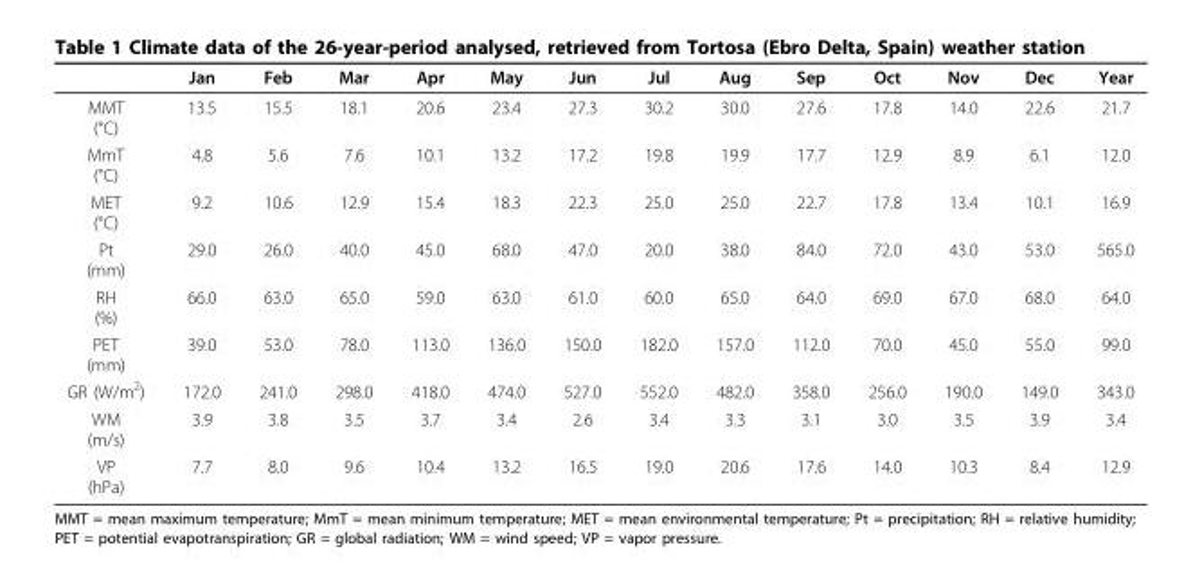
<table><thead><tr><td></td><td>Jan</td><td>Feb</td><td>Mar</td><td>Apr</td><td>May</td><td>Jun</td><td>Jul</td><td>Aug</td><td>Sep</td><td>Oct</td><td>Nov</td><td>Dec</td><td>Year</td></tr></thead><tbody><tr><td>MMT (°C)</td><td>13.5</td><td>15.5</td><td>18.1</td><td>20.6</td><td>23.4</td><td>27.3</td><td>30.2</td><td>30.0</td><td>27.6</td><td>17.8</td><td>14.0</td><td>22.6</td><td>21.7</td></tr><tr><td>MmT (°C)</td><td>4.8</td><td>5.6</td><td>7.6</td><td>10.1</td><td>13.2</td><td>17.2</td><td>19.8</td><td>19.9</td><td>17.7</td><td>12.9</td><td>8.9</td><td>6.1</td><td>12.0</td></tr><tr><td>MET (°C)</td><td>9.2</td><td>10.6</td><td>12.9</td><td>15.4</td><td>18.3</td><td>22.3</td><td>25.0</td><td>25.0</td><td>22.7</td><td>17.8</td><td>13.4</td><td>10.1</td><td>16.9</td></tr><tr><td>Pt (mm)</td><td>29.0</td><td>26.0</td><td>40.0</td><td>45.0</td><td>68.0</td><td>47.0</td><td>20.0</td><td>38.0</td><td>84.0</td><td>72.0</td><td>43.0</td><td>53.0</td><td>565.0</td></tr><tr><td>RH (%)</td><td>66.0</td><td>63.0</td><td>65.0</td><td>59.0</td><td>63.0</td><td>61.0</td><td>60.0</td><td>65.0</td><td>64.0</td><td>69.0</td><td>67.0</td><td>68.0</td><td>64.0</td></tr><tr><td>PET (mm)</td><td>39.0</td><td>53.0</td><td>78.0</td><td>113.0</td><td>136.0</td><td>150.0</td><td>182.0</td><td>157.0</td><td>112.0</td><td>70.0</td><td>45.0</td><td>55.0</td><td>99.0</td></tr><tr><td>GR (W/m<sup>2</sup>)</td><td>172.0</td><td>241.0</td><td>298.0</td><td>418.0</td><td>474.0</td><td>527.0</td><td>552.0</td><td>482.0</td><td>358.0</td><td>256.0</td><td>190.0</td><td>149.0</td><td>343.0</td></tr><tr><td>WM (m/s)</td><td>3.9</td><td>3.8</td><td>3.5</td><td>3.7</td><td>3.4</td><td>2.6</td><td>3.4</td><td>3.3</td><td>3.1</td><td>3.0</td><td>3.5</td><td>3.9</td><td>3.4</td></tr><tr><td>VP (hPa)</td><td>7.7</td><td>8.0</td><td>9.6</td><td>10.4</td><td>13.2</td><td>16.5</td><td>19.0</td><td>20.6</td><td>17.6</td><td>14.0</td><td>10.3</td><td>8.4</td><td>12.9</td></tr></tbody></table>